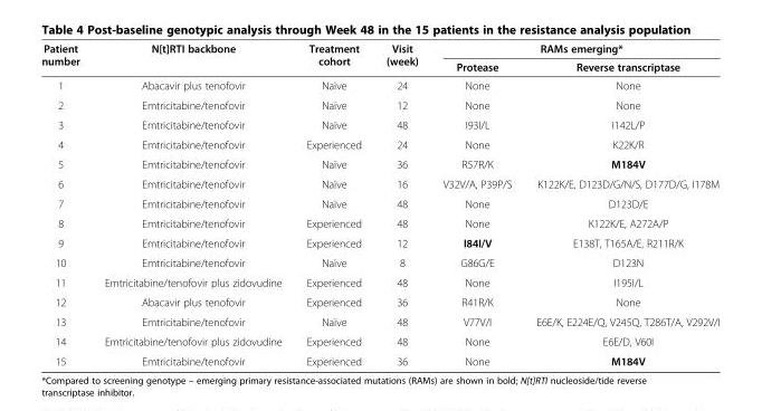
<table><thead><tr><td rowspan="2">Patient number</td><td rowspan="2">N[t]RTI backbone</td><td rowspan="2">Treatment cohort</td><td rowspan="2">Visit (week)</td><td colspan="2">RAMs emerging*</td></tr><tr><td>Protease</td><td>Reverse transcriptase</td></tr></thead><tbody><tr><td>1</td><td>Abacavir plus tenofovir</td><td>Naïve</td><td>24</td><td>None</td><td>None</td></tr><tr><td>2</td><td>Emtricitabine/tenofovir</td><td>Naïve</td><td>12</td><td>None</td><td>None</td></tr><tr><td>3</td><td>Emtricitabine/tenofovir</td><td>Naïve</td><td>48</td><td>I93I/L</td><td>I142L/P</td></tr><tr><td>4</td><td>Emtricitabine/tenofovir</td><td>Experienced</td><td>24</td><td>None</td><td>K22K/R</td></tr><tr><td>5</td><td>Emtricitabine/tenofovir</td><td>Naïve</td><td>36</td><td>R57R/K</td><td>M184V</td></tr><tr><td>6</td><td>Emtricitabine/tenofovir</td><td>Naïve</td><td>16</td><td>V32V/A, P39P/S</td><td>K122K/E, D123D/G/N/S, D177D/G, I178M</td></tr><tr><td>7</td><td>Emtricitabine/tenofovir</td><td>Naïve</td><td>48</td><td>None</td><td>D123D/E</td></tr><tr><td>8</td><td>Emtricitabine/tenofovir</td><td>Experienced</td><td>48</td><td>None</td><td>K122K/E, A272A/P</td></tr><tr><td>9</td><td>Emtricitabine/tenofovir</td><td>Experienced</td><td>12</td><td>I84I/V</td><td>E138T, T165A/E, R211R/K</td></tr><tr><td>10</td><td>Emtricitabine/tenofovir</td><td>Naïve</td><td>8</td><td>G86G/E</td><td>D123N</td></tr><tr><td>11</td><td>Emtricitabine/tenofovir plus zidovudine</td><td>Experienced</td><td>48</td><td>None</td><td>I195I/L</td></tr><tr><td>12</td><td>Abacavir plus tenofovir</td><td>Experienced</td><td>36</td><td>R41R/K</td><td>None</td></tr><tr><td>13</td><td>Emtricitabine/tenofovir</td><td>Naïve</td><td>48</td><td>V77V/I</td><td>E6E/K, E224E/Q, V245Q, T286T/A, V292V/I</td></tr><tr><td>14</td><td>Emtricitabine/tenofovir plus zidovudine</td><td>Experienced</td><td>48</td><td>None</td><td>E6E/D, V60I</td></tr><tr><td>15</td><td>Emtricitabine/tenofovir</td><td>Experienced</td><td>36</td><td>None</td><td>M184V</td></tr></tbody></table>